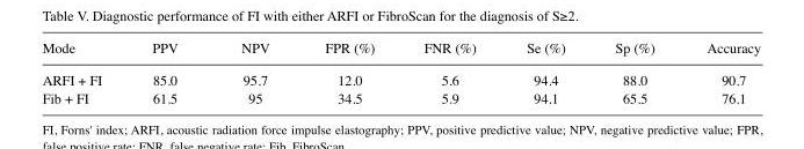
<table><thead><tr><td>Mode</td><td>PPV</td><td>NPV</td><td>FPR (%)</td><td>FNR (%)</td><td>Se (%)</td><td>Sp (%)</td><td>Accuracy</td></tr></thead><tbody><tr><td>ARFI + FI</td><td>85.0</td><td>95.7</td><td>12.0</td><td>5.6</td><td>94.4</td><td>88.0</td><td>90.7</td></tr><tr><td>Fib + FI</td><td>61.5</td><td>95</td><td>34.5</td><td>5.9</td><td>94.1</td><td>65.5</td><td>76.1</td></tr></tbody></table>